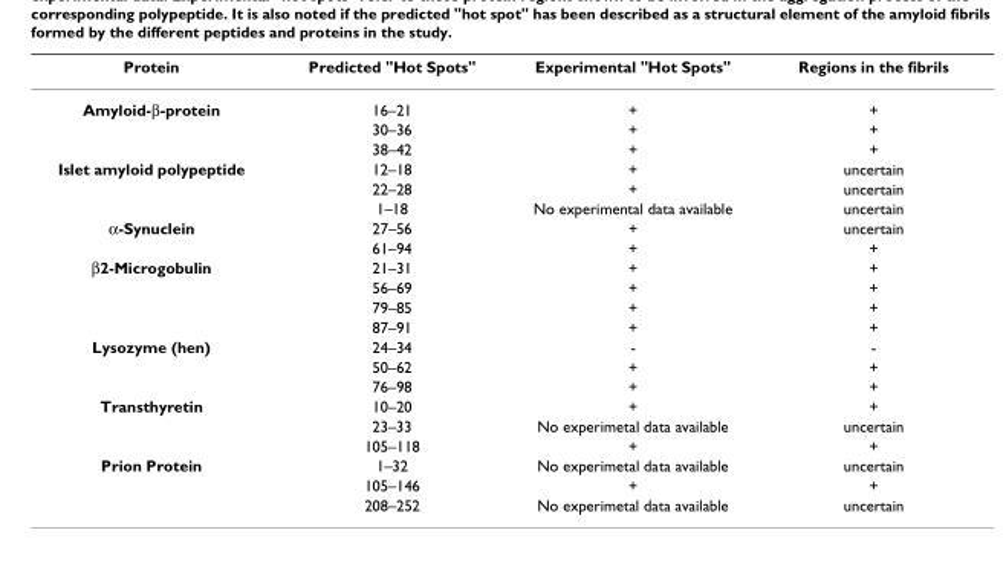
<table><thead><tr><td>Protein</td><td>Predicted &quot;Hot Spots&quot;</td><td>Experimental &quot;Hot Spots&quot;</td><td>Regions in the fibrils</td></tr></thead><tbody><tr><td rowspan="3">Amyloid-β-protein</td><td>16–21</td><td>+</td><td>+</td></tr><tr><td>30–36</td><td>+</td><td>+</td></tr><tr><td>38–42</td><td>+</td><td>+</td></tr><tr><td rowspan="3">Islet amyloid polypeptide</td><td>12–18</td><td>+</td><td>uncertain</td></tr><tr><td>22–28</td><td>+</td><td>uncertain</td></tr><tr><td>1–18</td><td>No experimental data available</td><td>uncertain</td></tr><tr><td rowspan="2">α-Synuclein</td><td>27–56</td><td>+</td><td>uncertain</td></tr><tr><td>61–94</td><td>+</td><td>+</td></tr><tr><td rowspan="4">β2-Microgobulin</td><td>21–31</td><td>+</td><td>+</td></tr><tr><td>56–69</td><td>+</td><td>+</td></tr><tr><td>79–85</td><td>+</td><td>+</td></tr><tr><td>87–91</td><td>+</td><td>+</td></tr><tr><td rowspan="3">Lysozyme (hen)</td><td>24–34</td><td>-</td><td>-</td></tr><tr><td>50–62</td><td>+</td><td>+</td></tr><tr><td>76–98</td><td>+</td><td>+</td></tr><tr><td rowspan="3">Transthyretin</td><td>10–20</td><td>+</td><td>+</td></tr><tr><td>23–33</td><td>No experimetal data available</td><td>uncertain</td></tr><tr><td>105–118</td><td>+</td><td>+</td></tr><tr><td rowspan="3">Prion Protein</td><td>1–32</td><td>No experimetal data available</td><td>uncertain</td></tr><tr><td>105–146</td><td>+</td><td>+</td></tr><tr><td>208–252</td><td>No experimetal data available</td><td>uncertain</td></tr></tbody></table>